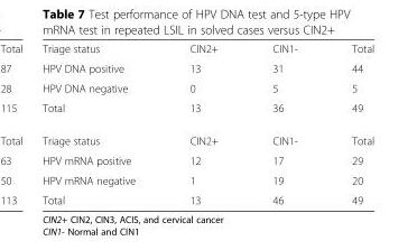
<table><tbody><tr><td>Triage status</td><td>CIN2+</td><td>CIN1-</td><td>Total</td></tr><tr><td>HPV DNA positive</td><td>13</td><td>31</td><td>44</td></tr><tr><td>HPV DNA negative</td><td>0</td><td>5</td><td>5</td></tr><tr><td>Total</td><td>13</td><td>36</td><td>49</td></tr><tr><td>Triage status</td><td>CIN2+</td><td>CIN1-</td><td>Total</td></tr><tr><td>HPV mRNA positive</td><td>12</td><td>17</td><td>29</td></tr><tr><td>HPV mRNA negative</td><td>1</td><td>19</td><td>20</td></tr><tr><td>Total</td><td>13</td><td>46</td><td>49</td></tr></tbody></table>